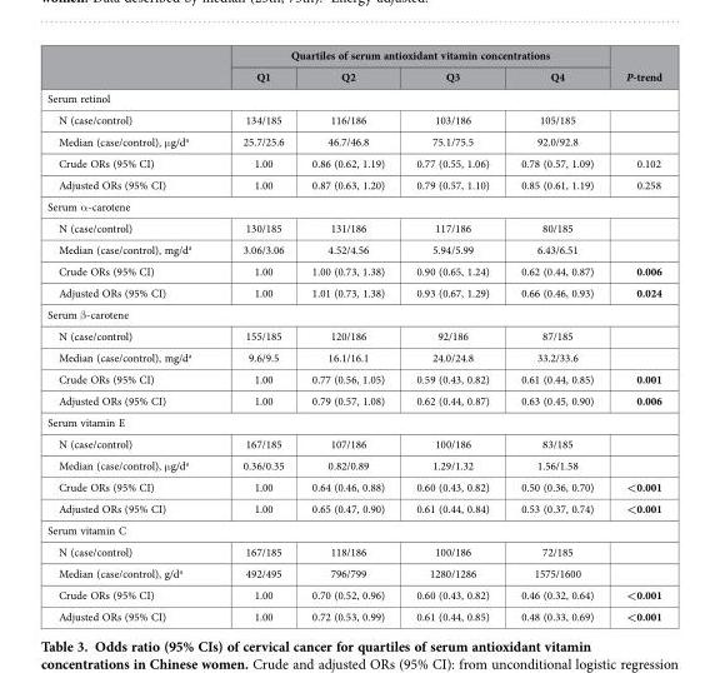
<table><thead><tr><td rowspan="2"></td><td colspan="4">Quartiles of serum antioxidant vitamin concentrations</td><td rowspan="2">P-trend</td></tr><tr><td>Q1</td><td>Q2</td><td>Q3</td><td>Q4</td></tr></thead><tbody><tr><td colspan="6">Serum retinol</td></tr><tr><td>N (case/control)</td><td>134/185</td><td>116/186</td><td>103/186</td><td>105/185</td><td></td></tr><tr><td>Median (case/control), μ g/d<sup>a</sup></td><td>25.7/25.6</td><td>46.7/46.8</td><td>75.1/75.5</td><td>92.0/92.8</td><td></td></tr><tr><td>Crude ORs (95% CI)</td><td>1.00</td><td>0.86 (0.62, 1.19)</td><td>0.77 (0.55, 1.06)</td><td>0.78 (0.57, 1.09)</td><td>0.102</td></tr><tr><td>Adjusted ORs (95% CI)</td><td>1.00</td><td>0.87 (0.63, 1.20)</td><td>0.79 (0.57, 1.10)</td><td>0.85 (0.61, 1.19)</td><td>0.258</td></tr><tr><td colspan="6">Serum α -carotene</td></tr><tr><td>N (case/control)</td><td>130/185</td><td>131/186</td><td>117/186</td><td>80/185</td><td></td></tr><tr><td>Median (case/control), mg/d<sup>a</sup></td><td>3.06/3.06</td><td>4.52/4.56</td><td>5.94/5.99</td><td>6.43/6.51</td><td></td></tr><tr><td>Crude ORs (95% CI)</td><td>1.00</td><td>1.00 (0.73, 1.38)</td><td>0.90 (0.65, 1.24)</td><td>0.62 (0.44, 0.87)</td><td>0.006</td></tr><tr><td>Adjusted ORs (95% CI)</td><td>1.00</td><td>1.01 (0.73, 1.38)</td><td>0.93 (0.67, 1.29)</td><td>0.66 (0.46, 0.93)</td><td>0.024</td></tr><tr><td colspan="6">Serum β -carotene</td></tr><tr><td>N (case/control)</td><td>155/185</td><td>120/186</td><td>92/186</td><td>87/185</td><td></td></tr><tr><td>Median (case/control), mg/d<sup>a</sup></td><td>9.6/9.5</td><td>16.1/16.1</td><td>24.0/24.8</td><td>33.2/33.6</td><td></td></tr><tr><td>Crude ORs (95% CI)</td><td>1.00</td><td>0.77 (0.56, 1.05)</td><td>0.59 (0.43, 0.82)</td><td>0.61 (0.44, 0.85)</td><td>0.001</td></tr><tr><td>Adjusted ORs (95% CI)</td><td>1.00</td><td>0.79 (0.57, 1.08)</td><td>0.62 (0.44, 0.87)</td><td>0.63 (0.45, 0.90)</td><td>0.006</td></tr><tr><td colspan="6">Serum vitamin E</td></tr><tr><td>N (case/control)</td><td>167/185</td><td>107/186</td><td>100/186</td><td>83/185</td><td></td></tr><tr><td>Median (case/control), μ g/d<sup>a</sup></td><td>0.36/0.35</td><td>0.82/0.89</td><td>1.29/1.32</td><td>1.56/1.58</td><td></td></tr><tr><td>Crude ORs (95% CI)</td><td>1.00</td><td>0.64 (0.46, 0.88)</td><td>0.60 (0.43, 0.82)</td><td>0.50 (0.36, 0.70)</td><td>&lt;0.001</td></tr><tr><td>Adjusted ORs (95% CI)</td><td>1.00</td><td>0.65 (0.47, 0.90)</td><td>0.61 (0.44, 0.84)</td><td>0.53 (0.37, 0.74)</td><td>&lt;0.001</td></tr><tr><td colspan="6">Serum vitamin C</td></tr><tr><td>N (case/control)</td><td>167/185</td><td>118/186</td><td>100/186</td><td>72/185</td><td></td></tr><tr><td>Median (case/control), g/d<sup>a</sup></td><td>492/495</td><td>796/799</td><td>1280/1286</td><td>1575/1600</td><td></td></tr><tr><td>Crude ORs (95% CI)</td><td>1.00</td><td>0.70 (0.52, 0.96)</td><td>0.60 (0.43, 0.82)</td><td>0.46 (0.32, 0.64)</td><td>&lt;0.001</td></tr><tr><td>Adjusted ORs (95% CI)</td><td>1.00</td><td>0.72 (0.53, 0.99)</td><td>0.61 (0.44, 0.85)</td><td>0.48 (0.33, 0.69)</td><td>&lt;0.001</td></tr></tbody></table>